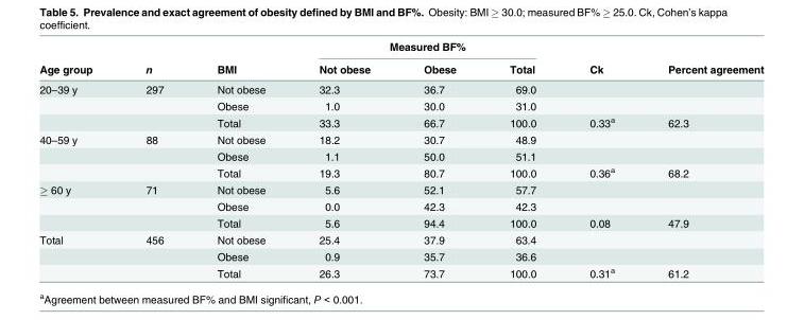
<table><thead><tr><td rowspan="2">Age group</td><td rowspan="2">n</td><td rowspan="2">BMI</td><td colspan="3">Measured BF%</td><td rowspan="2">Ck</td><td rowspan="2">Percent agreement</td></tr><tr><td>Not obese</td><td>Obese</td><td>Total</td></tr></thead><tbody><tr><td rowspan="3">20–39 y</td><td>297</td><td>Not obese</td><td>32.3</td><td>36.7</td><td>69.0</td><td></td><td></td></tr><tr><td></td><td>Obese</td><td>1.0</td><td>30.0</td><td>31.0</td><td></td><td></td></tr><tr><td></td><td>Total</td><td>33.3</td><td>66.7</td><td>100.0</td><td>0.33<sup>a</sup></td><td>62.3</td></tr><tr><td rowspan="3">40–59 y</td><td>88</td><td>Not obese</td><td>18.2</td><td>30.7</td><td>48.9</td><td></td><td></td></tr><tr><td></td><td>Obese</td><td>1.1</td><td>50.0</td><td>51.1</td><td></td><td></td></tr><tr><td></td><td>Total</td><td>19.3</td><td>80.7</td><td>100.0</td><td>0.36<sup>a</sup></td><td>68.2</td></tr><tr><td rowspan="3">≥ 60 y</td><td>71</td><td>Not obese</td><td>5.6</td><td>52.1</td><td>57.7</td><td></td><td></td></tr><tr><td></td><td>Obese</td><td>0.0</td><td>42.3</td><td>42.3</td><td></td><td></td></tr><tr><td></td><td>Total</td><td>5.6</td><td>94.4</td><td>100.0</td><td>0.08</td><td>47.9</td></tr><tr><td rowspan="3">Total</td><td>456</td><td>Not obese</td><td>25.4</td><td>37.9</td><td>63.4</td><td></td><td></td></tr><tr><td></td><td>Obese</td><td>0.9</td><td>35.7</td><td>36.6</td><td></td><td></td></tr><tr><td></td><td>Total</td><td>26.3</td><td>73.7</td><td>100.0</td><td>0.31<sup>a</sup></td><td>61.2</td></tr></tbody></table>